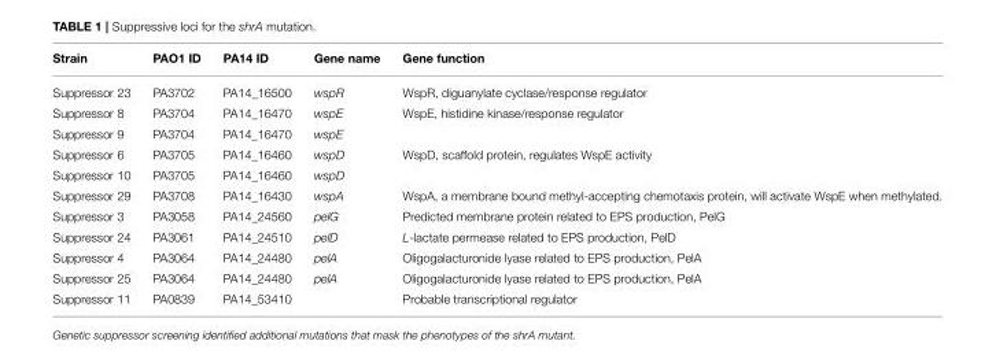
<table><thead><tr><td>Strain</td><td>PAO1 ID</td><td>PA14 ID</td><td>Gene name</td><td>Gene function</td></tr></thead><tbody><tr><td>Suppressor 23</td><td>PA3702</td><td>PA14_16500</td><td>wspR</td><td>WspR, diguanylate cyclase/response regulator</td></tr><tr><td>Suppressor 8</td><td>PA3704</td><td>PA14_16470</td><td>wspE</td><td>WspE, histidine kinase/response regulator</td></tr><tr><td>Suppressor 9</td><td>PA3704</td><td>PA14_16470</td><td>wspE</td><td></td></tr><tr><td>Suppressor 6</td><td>PA3705</td><td>PA14_16460</td><td>wspD</td><td>WspD, scaffold protein, regulates WspE activity</td></tr><tr><td>Suppressor 10</td><td>PA3705</td><td>PA14_16460</td><td>wspD</td><td></td></tr><tr><td>Suppressor 29</td><td>PA3708</td><td>PA14_16430</td><td>wspA</td><td>WspA, a membrane bound methyl-accepting chemotaxis protein, will activate WspE when methylated.</td></tr><tr><td>Suppressor 3</td><td>PA3058</td><td>PA14_24560</td><td>pelG</td><td>Predicted membrane protein related to EPS production, PelG</td></tr><tr><td>Suppressor 24</td><td>PA3061</td><td>PA14_24510</td><td>pelD</td><td>L-lactate permease related to EPS production, PelD</td></tr><tr><td>Suppressor 4</td><td>PA3064</td><td>PA14_24480</td><td>pelA</td><td>Oligogalacturonide lyase related to EPS production, PelA</td></tr><tr><td>Suppressor 25</td><td>PA3064</td><td>PA14_24480</td><td>pelA</td><td>Oligogalacturonide lyase related to EPS production, PelA</td></tr><tr><td>Suppressor 11</td><td>PA0839</td><td>PA14_53410</td><td></td><td>Probable transcriptional regulator</td></tr></tbody></table>